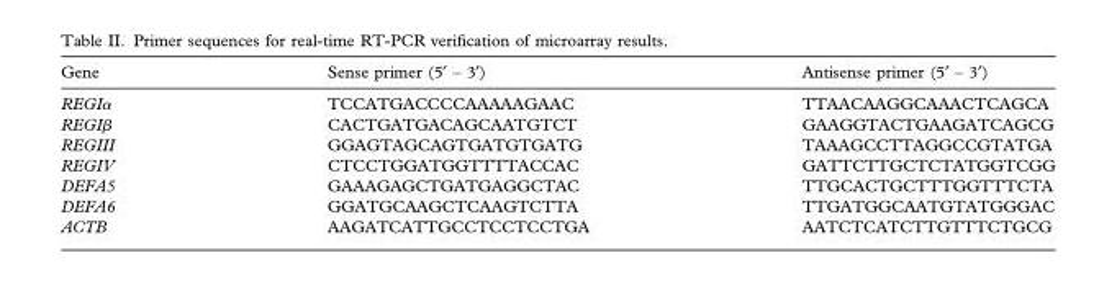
<table><thead><tr><td>Gene</td><td>Sense primer (5¢ – 3¢)</td><td>Antisense primer (5¢ – 3¢)</td></tr></thead><tbody><tr><td>REGIα</td><td>TCCATGACCCCAAAAAGAAC</td><td>TTAACAAGGCAAACTCAGCA</td></tr><tr><td>REGIβ</td><td>CACTGATGACAGCAATGTCT</td><td>GAAGGTACTGAAGATCAGCG</td></tr><tr><td>REGIII</td><td>GGAGTAGCAGTGATGTGATG</td><td>TAAAGCCTTAGGCCGTATGA</td></tr><tr><td>REGIV</td><td>CTCCTGGATGGTTTTACCAC</td><td>GATTCTTGCTCTATGGTCGG</td></tr><tr><td>DEFA5</td><td>GAAAGAGCTGATGAGGCTAC</td><td>TTGCACTGCTTTGGTTTCTA</td></tr><tr><td>DEFA6</td><td>GGATGCAAGCTCAAGTCTTA</td><td>TTGATGGCAATGTATGGGAC</td></tr><tr><td>ACTB</td><td>AAGATCATTGCCTCCTCCTGA</td><td>AATCTCATCTTGTTTCTGCG</td></tr></tbody></table>